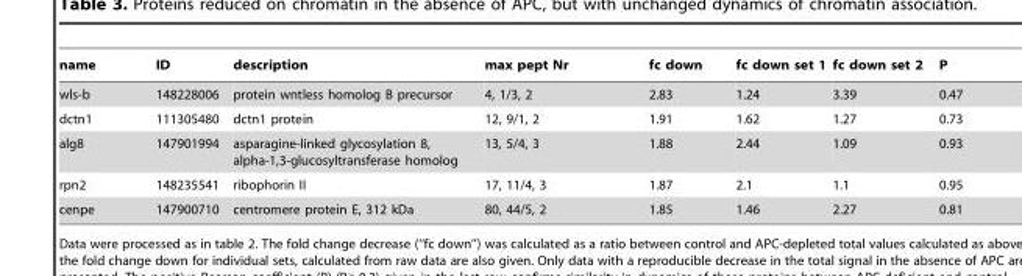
<table><thead><tr><td>name</td><td>ID</td><td>description</td><td>max pept Nr</td><td>fc down</td><td>fc down set 1</td><td>fc down set 2</td><td>P</td></tr></thead><tbody><tr><td>wls-b</td><td>148228006</td><td>protein wntless homolog B precursor</td><td>4, 1/3, 2</td><td>2.83</td><td>1.24</td><td>3.39</td><td>0.47</td></tr><tr><td>dctn1</td><td>111305480</td><td>dctn1 protein</td><td>12, 9/1, 2</td><td>1.91</td><td>1.62</td><td>1.27</td><td>0.73</td></tr><tr><td>alg8</td><td>147901994</td><td>asparagine-linked glycosylation 8, alpha-1,3-glucosyltransferase homolog</td><td>13, 5/4, 3</td><td>1.88</td><td>2.44</td><td>1.09</td><td>0.93</td></tr><tr><td>rpn2</td><td>148235541</td><td>ribophorin II</td><td>17, 11/4, 3</td><td>1.87</td><td>2.1</td><td>1.1</td><td>0.95</td></tr><tr><td>cenpe</td><td>147900710</td><td>centromere protein E, 312 kDa</td><td>80, 44/5, 2</td><td>1.85</td><td>1.46</td><td>2.27</td><td>0.81</td></tr></tbody></table>